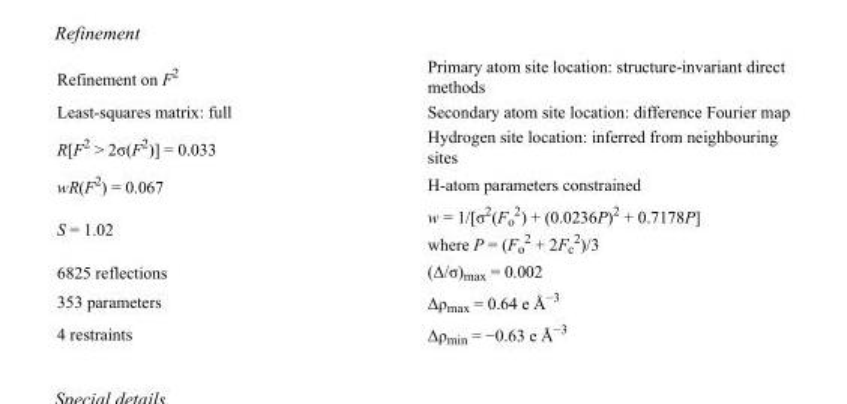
<table><tbody><tr><td>Refinement on F<sup>2</sup></td><td>Primary atom site location: structure-invariant direct methods</td></tr><tr><td>Least-squares matrix: full</td><td>Secondary atom site location: difference Fourier map</td></tr><tr><td>R[F<sup>2</sup> &gt; 2σ(F<sup>2</sup>)] = 0.033</td><td>Hydrogen site location: inferred from neighbouring sites</td></tr><tr><td>wR(F<sup>2</sup>) = 0.067</td><td>H-atom parameters constrained</td></tr><tr><td>S = 1.02</td><td>w = 1/[σ<sup>2</sup>(F<sub>o</sub> <sup>2</sup>) + (0.0236P)<sup>2</sup> + 0.7178P] where P = (F<sub>o</sub> <sup>2</sup> + 2F<sub>c</sub> <sup>2</sup>)/3</td></tr><tr><td>6825 reflections</td><td>(Δ/σ)<sub>max</sub> = 0.002</td></tr><tr><td>353 parameters</td><td>Δρ<sub>max</sub> = 0.64 e Å<sup>−3</sup></td></tr><tr><td>4 restraints</td><td>Δρ<sub>min</sub> = −0.63 e Å<sup>−3</sup></td></tr></tbody></table>